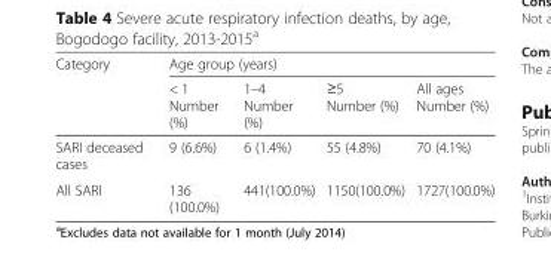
<table><thead><tr><td rowspan="2">Category</td><td colspan="4">Age group (years)</td></tr><tr><td>&lt; 1 Number (%)</td><td>1–4 Number (%)</td><td>≥5 Number (%)</td><td>All ages Number (%)</td></tr></thead><tbody><tr><td>SARI deceased cases</td><td>9 (6.6%)</td><td>6 (1.4%)</td><td>55 (4.8%)</td><td>70 (4.1%)</td></tr><tr><td>All SARI</td><td>136 (100.0%)</td><td>441(100.0%)</td><td>1150(100.0%)</td><td>1727(100.0%)</td></tr></tbody></table>